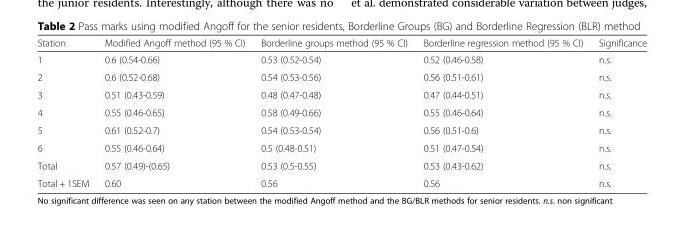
<table><thead><tr><td>Station</td><td>Modified Angoff method (95 % CI)</td><td>Borderline groups method (95 % CI)</td><td>Borderline regression method (95 % CI)</td><td>Significance</td></tr></thead><tbody><tr><td>1</td><td>0.6 (0.54-0.66)</td><td>0.53 (0.52-0.54)</td><td>0.52 (0.46-0.58)</td><td>n.s.</td></tr><tr><td>2</td><td>0.6 (0.52-0.68)</td><td>0.54 (0.53-0.56)</td><td>0.56 (0.51-0.61)</td><td>n.s.</td></tr><tr><td>3</td><td>0.51 (0.43-0.59)</td><td>0.48 (0.47-0.48)</td><td>0.47 (0.44-0.51)</td><td>n.s.</td></tr><tr><td>4</td><td>0.55 (0.46-0.65)</td><td>0.58 (0.49-0.66)</td><td>0.55 (0.46-0.64)</td><td>n.s.</td></tr><tr><td>5</td><td>0.61 (0.52-0.7)</td><td>0.54 (0.53-0.54)</td><td>0.56 (0.51-0.6)</td><td>n.s.</td></tr><tr><td>6</td><td>0.55 (0.46-0.64)</td><td>0.5 (0.48-0.51)</td><td>0.51 (0.47-0.54)</td><td>n.s.</td></tr><tr><td>Total</td><td>0.57 (0.49)-(0.65)</td><td>0.53 (0.5-0.55)</td><td>0.53 (0.43-0.62)</td><td>n.s.</td></tr><tr><td>Total + 1SEM</td><td>0.60</td><td>0.56</td><td>0.56</td><td>n.s.</td></tr></tbody></table>